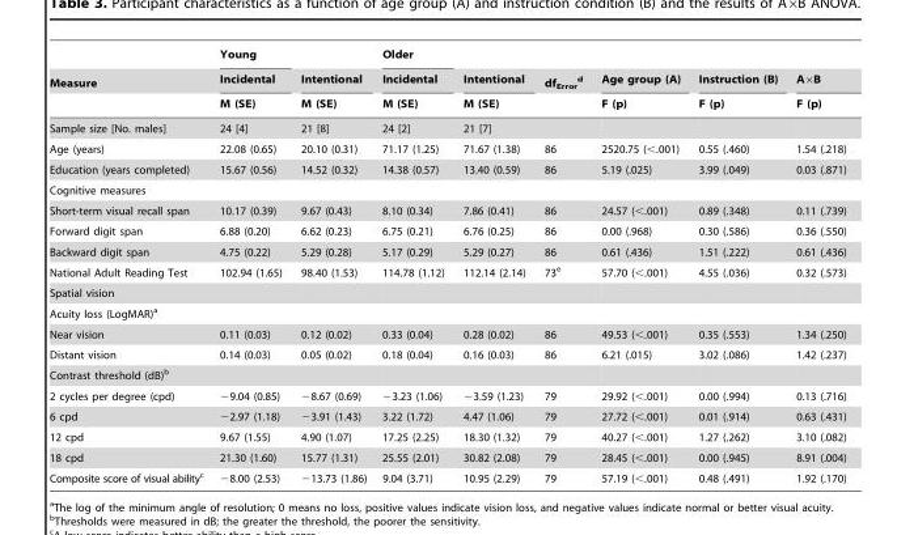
<table><thead><tr><td rowspan="3">Measure</td><td rowspan="3">Young Incidental M (SE)</td><td rowspan="3">Intentional M (SE)</td><td rowspan="3">Older Incidental M (SE)</td><td rowspan="3">Intentional M (SE)</td><td rowspan="3">df<sub>Error</sub> d</td><td rowspan="3">Age group (A) F (p)</td><td rowspan="3">Instruction (B) F (p)</td><td rowspan="3">A×B F (p)</td></tr><tr></tr><tr></tr></thead><tbody><tr><td>Sample size [No. males]</td><td>24 [4]</td><td>21 [8]</td><td>24 [2]</td><td>21 [7]</td><td></td><td></td><td></td><td></td></tr><tr><td>Age (years)</td><td>22.08 (0.65)</td><td>20.10 (0.31)</td><td>71.17 (1.25)</td><td>71.67 (1.38)</td><td>86</td><td>2520.75 (&lt;.001)</td><td>0.55 (.460)</td><td>1.54 (.218)</td></tr><tr><td>Education (years completed)</td><td>15.67 (0.56)</td><td>14.52 (0.32)</td><td>14.38 (0.57)</td><td>13.40 (0.59)</td><td>86</td><td>5.19 (.025)</td><td>3.99 (.049)</td><td>0.03 (.871)</td></tr><tr><td colspan="9">Cognitive measures</td></tr><tr><td>Short-term visual recall span</td><td>10.17 (0.39)</td><td>9.67 (0.43)</td><td>8.10 (0.34)</td><td>7.86 (0.41)</td><td>86</td><td>24.57 (&lt;.001)</td><td>0.89 (.348)</td><td>0.11 (.739)</td></tr><tr><td>Forward digit span</td><td>6.88 (0.20)</td><td>6.62 (0.23)</td><td>6.75 (0.21)</td><td>6.76 (0.25)</td><td>86</td><td>0.00 (.968)</td><td>0.30 (.586)</td><td>0.36 (.550)</td></tr><tr><td>Backward digit span</td><td>4.75 (0.22)</td><td>5.29 (0.28)</td><td>5.17 (0.29)</td><td>5.29 (0.27)</td><td>86</td><td>0.61 (.436)</td><td>1.51 (.222)</td><td>0.61 (.436)</td></tr><tr><td>National Adult Reading Test</td><td>102.94 (1.65)</td><td>98.40 (1.53)</td><td>114.78 (1.12)</td><td>112.14 (2.14)</td><td>73<sup>e</sup></td><td>57.70 (&lt;.001)</td><td>4.55 (.036)</td><td>0.32 (.573)</td></tr><tr><td colspan="9">Spatial vision</td></tr><tr><td colspan="9">Acuity loss (LogMAR)<sup>a</sup></td></tr><tr><td>Near vision</td><td>0.11 (0.03)</td><td>0.12 (0.02)</td><td>0.33 (0.04)</td><td>0.28 (0.02)</td><td>86</td><td>49.53 (&lt;.001)</td><td>0.35 (.553)</td><td>1.34 (.250)</td></tr><tr><td>Distant vision</td><td>0.14 (0.03)</td><td>0.05 (0.02)</td><td>0.18 (0.04)</td><td>0.16 (0.03)</td><td>86</td><td>6.21 (.015)</td><td>3.02 (.086)</td><td>1.42 (.237)</td></tr><tr><td colspan="9">Contrast threshold (dB)<sup>b</sup></td></tr><tr><td>2 cycles per degree (cpd)</td><td>−9.04 (0.85)</td><td>−8.67 (0.69)</td><td>−3.23 (1.06)</td><td>−3.59 (1.23)</td><td>79</td><td>29.92 (&lt;.001)</td><td>0.00 (.994)</td><td>0.13 (.716)</td></tr><tr><td>6 cpd</td><td>−2.97 (1.18)</td><td>−3.91 (1.43)</td><td>3.22 (1.72)</td><td>4.47 (1.06)</td><td>79</td><td>27.72 (&lt;.001)</td><td>0.01 (.914)</td><td>0.63 (.431)</td></tr><tr><td>12 cpd</td><td>9.67 (1.55)</td><td>4.90 (1.07)</td><td>17.25 (2.25)</td><td>18.30 (1.32)</td><td>79</td><td>40.27 (&lt;.001)</td><td>1.27 (.262)</td><td>3.10 (.082)</td></tr><tr><td>18 cpd</td><td>21.30 (1.60)</td><td>15.77 (1.31)</td><td>25.55 (2.01)</td><td>30.82 (2.08)</td><td>79</td><td>28.45 (&lt;.001)</td><td>0.00 (.945)</td><td>8.91 (.004)</td></tr><tr><td>Composite score of visual ability<sup>c</sup></td><td>−8.00 (2.53)</td><td>−13.73 (1.86)</td><td>9.04 (3.71)</td><td>10.95 (2.29)</td><td>79</td><td>57.19 (&lt;.001)</td><td>0.48 (.491)</td><td>1.92 (.170)</td></tr></tbody></table>